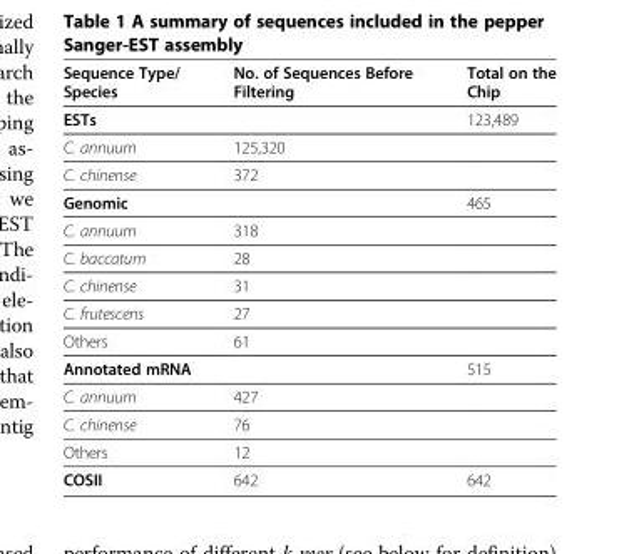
<table><thead><tr><td>Sequence Type/ Species</td><td>No. of Sequences Before Filtering</td><td>Total on the Chip</td></tr></thead><tbody><tr><td>ESTs</td><td></td><td>123,489</td></tr><tr><td>C. annuum</td><td>125,320</td><td></td></tr><tr><td>C. chinense</td><td>372</td><td></td></tr><tr><td>Genomic</td><td></td><td>465</td></tr><tr><td>C. annuum</td><td>318</td><td></td></tr><tr><td>C. baccatum</td><td>28</td><td></td></tr><tr><td>C. chinense</td><td>31</td><td></td></tr><tr><td>C. frutescens</td><td>27</td><td></td></tr><tr><td>Others</td><td>61</td><td></td></tr><tr><td colspan="2">Annotated mRNA</td><td>515</td></tr><tr><td>C. annuum</td><td>427</td><td></td></tr><tr><td>C. chinense</td><td>76</td><td></td></tr><tr><td>Others</td><td>12</td><td></td></tr><tr><td>COSII</td><td>642</td><td>642</td></tr></tbody></table>